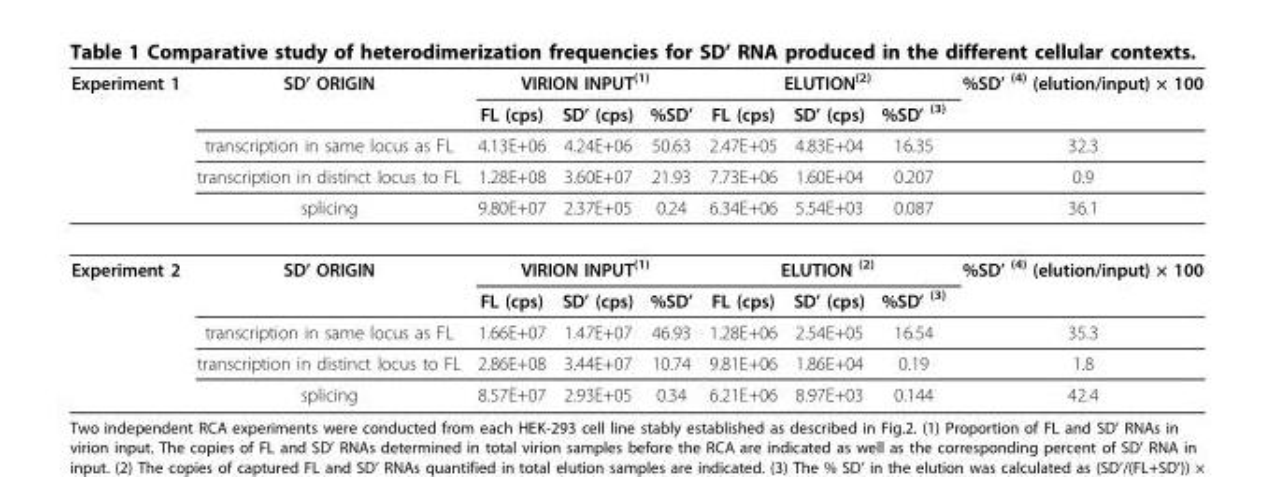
<table><thead><tr><td rowspan="5">Experiment 1</td><td rowspan="5">SD’ ORIGIN transcription in same locus as FL transcription in distinct locus to FL splicing</td><td colspan="3">VIRION INPUT(1)</td><td colspan="3">ELUTION(2)</td><td rowspan="5">%SD’ (4) (elution/input) × 100 32.3 0.9 36.1</td></tr><tr><td rowspan="4">FL (cps) 4.13E+06 1.28E+08 9.80E+07</td><td rowspan="4">SD’ (cps) 4.24E+06 3.60E+07 2.37E+05</td><td rowspan="4">%SD’ 50.63 21.93 0.24</td><td rowspan="4">FL (cps) 2.47E+05 7.73E+06 6.34E+06</td><td rowspan="4">SD’ (cps) 4.83E+04 1.60E+04 5.54E+03</td><td rowspan="4">%SD’ (3) 16.35 0.207 0.087</td></tr><tr></tr><tr></tr><tr></tr></thead><tbody><tr><td rowspan="5">Experiment 2</td><td>SD’ ORIGIN</td><td colspan="3">VIRION INPUT(1)</td><td colspan="3">ELUTION (2)</td><td>%SD’ <sup>(4)</sup> (elution/input) × 100</td></tr><tr><td></td><td>FL (cps)</td><td>SD’ (cps)</td><td>%SD’</td><td>FL (cps)</td><td>SD’ (cps)</td><td>%SD’ <sup>(3)</sup></td><td></td></tr><tr><td>transcription in same locus as FL</td><td>1.66E+07</td><td>1.47E+07</td><td>46.93</td><td>1.28E+06</td><td>2.54E+05</td><td>16.54</td><td>35.3</td></tr><tr><td>transcription in distinct locus to FL</td><td>2.86E+08</td><td>3.44E+07</td><td>10.74</td><td>9.81E+06</td><td>1.86E+04</td><td>0.19</td><td>1.8</td></tr><tr><td>splicing</td><td>8.57E+07</td><td>2.93E+05</td><td>0.34</td><td>6.21E+06</td><td>8.97E+03</td><td>0.144</td><td>42.4</td></tr></tbody></table>